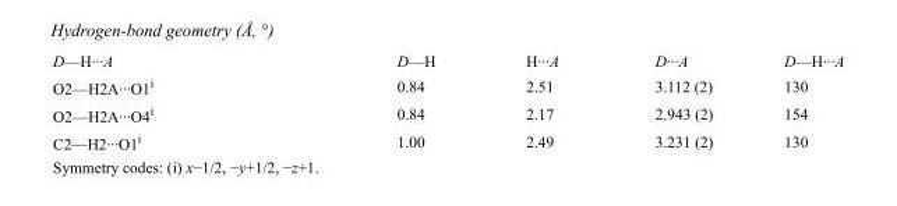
<table><tbody><tr><td>D—H···A</td><td>D—H</td><td>H···A</td><td>D···A</td><td>D—H···A</td></tr><tr><td>O2—H2A···O1<sup>i</sup></td><td>0.84</td><td>2.51</td><td>3.112 (2)</td><td>130</td></tr><tr><td>O2—H2A···O4<sup>i</sup></td><td>0.84</td><td>2.17</td><td>2.943 (2)</td><td>154</td></tr><tr><td>C2—H2···O1<sup>i</sup></td><td>1.00</td><td>2.49</td><td>3.231 (2)</td><td>130</td></tr></tbody></table>